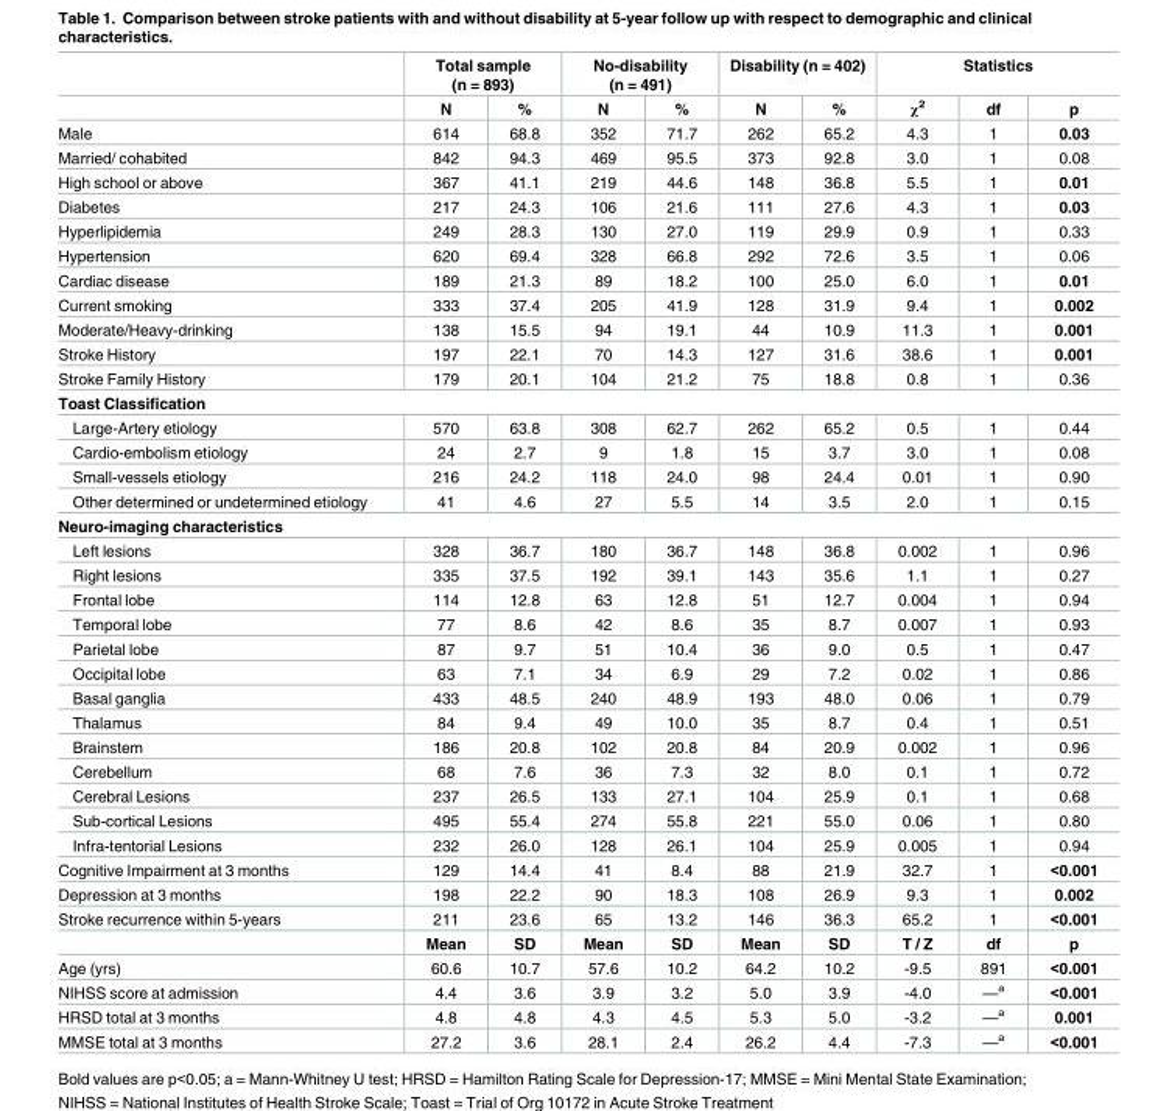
<table><thead><tr><td rowspan="2"></td><td colspan="2">Total sample (n = 893)</td><td colspan="2">No-disability (n = 491)</td><td colspan="2">Disability (n = 402)</td><td colspan="3">Statistics</td></tr><tr><td>N</td><td>%</td><td>N</td><td>%</td><td>N</td><td>%</td><td>χ<sup>2</sup></td><td>df</td><td>p</td></tr></thead><tbody><tr><td>Male</td><td>614</td><td>68.8</td><td>352</td><td>71.7</td><td>262</td><td>65.2</td><td>4.3</td><td>1</td><td>0.03</td></tr><tr><td>Married/ cohabited</td><td>842</td><td>94.3</td><td>469</td><td>95.5</td><td>373</td><td>92.8</td><td>3.0</td><td>1</td><td>0.08</td></tr><tr><td>High school or above</td><td>367</td><td>41.1</td><td>219</td><td>44.6</td><td>148</td><td>36.8</td><td>5.5</td><td>1</td><td>0.01</td></tr><tr><td>Diabetes</td><td>217</td><td>24.3</td><td>106</td><td>21.6</td><td>111</td><td>27.6</td><td>4.3</td><td>1</td><td>0.03</td></tr><tr><td>Hyperlipidemia</td><td>249</td><td>28.3</td><td>130</td><td>27.0</td><td>119</td><td>29.9</td><td>0.9</td><td>1</td><td>0.33</td></tr><tr><td>Hypertension</td><td>620</td><td>69.4</td><td>328</td><td>66.8</td><td>292</td><td>72.6</td><td>3.5</td><td>1</td><td>0.06</td></tr><tr><td>Cardiac disease</td><td>189</td><td>21.3</td><td>89</td><td>18.2</td><td>100</td><td>25.0</td><td>6.0</td><td>1</td><td>0.01</td></tr><tr><td>Current smoking</td><td>333</td><td>37.4</td><td>205</td><td>41.9</td><td>128</td><td>31.9</td><td>9.4</td><td>1</td><td>0.002</td></tr><tr><td>Moderate/Heavy-drinking</td><td>138</td><td>15.5</td><td>94</td><td>19.1</td><td>44</td><td>10.9</td><td>11.3</td><td>1</td><td>0.001</td></tr><tr><td>Stroke History</td><td>197</td><td>22.1</td><td>70</td><td>14.3</td><td>127</td><td>31.6</td><td>38.6</td><td>1</td><td>0.001</td></tr><tr><td>Stroke Family History</td><td>179</td><td>20.1</td><td>104</td><td>21.2</td><td>75</td><td>18.8</td><td>0.8</td><td>1</td><td>0.36</td></tr><tr><td colspan="10">Toast Classification</td></tr><tr><td>Large-Artery etiology</td><td>570</td><td>63.8</td><td>308</td><td>62.7</td><td>262</td><td>65.2</td><td>0.5</td><td>1</td><td>0.44</td></tr><tr><td>Cardio-embolism etiology</td><td>24</td><td>2.7</td><td>9</td><td>1.8</td><td>15</td><td>3.7</td><td>3.0</td><td>1</td><td>0.08</td></tr><tr><td>Small-vessels etiology</td><td>216</td><td>24.2</td><td>118</td><td>24.0</td><td>98</td><td>24.4</td><td>0.01</td><td>1</td><td>0.90</td></tr><tr><td>Other determined or undetermined etiology</td><td>41</td><td>4.6</td><td>27</td><td>5.5</td><td>14</td><td>3.5</td><td>2.0</td><td>1</td><td>0.15</td></tr><tr><td colspan="10">Neuro-imaging characteristics</td></tr><tr><td>Left lesions</td><td>328</td><td>36.7</td><td>180</td><td>36.7</td><td>148</td><td>36.8</td><td>0.002</td><td>1</td><td>0.96</td></tr><tr><td>Right lesions</td><td>335</td><td>37.5</td><td>192</td><td>39.1</td><td>143</td><td>35.6</td><td>1.1</td><td>1</td><td>0.27</td></tr><tr><td>Frontal lobe</td><td>114</td><td>12.8</td><td>63</td><td>12.8</td><td>51</td><td>12.7</td><td>0.004</td><td>1</td><td>0.94</td></tr><tr><td>Temporal lobe</td><td>77</td><td>8.6</td><td>42</td><td>8.6</td><td>35</td><td>8.7</td><td>0.007</td><td>1</td><td>0.93</td></tr><tr><td>Parietal lobe</td><td>87</td><td>9.7</td><td>51</td><td>10.4</td><td>36</td><td>9.0</td><td>0.5</td><td>1</td><td>0.47</td></tr><tr><td>Occipital lobe</td><td>63</td><td>7.1</td><td>34</td><td>6.9</td><td>29</td><td>7.2</td><td>0.02</td><td>1</td><td>0.86</td></tr><tr><td>Basal ganglia</td><td>433</td><td>48.5</td><td>240</td><td>48.9</td><td>193</td><td>48.0</td><td>0.06</td><td>1</td><td>0.79</td></tr><tr><td>Thalamus</td><td>84</td><td>9.4</td><td>49</td><td>10.0</td><td>35</td><td>8.7</td><td>0.4</td><td>1</td><td>0.51</td></tr><tr><td>Brainstem</td><td>186</td><td>20.8</td><td>102</td><td>20.8</td><td>84</td><td>20.9</td><td>0.002</td><td>1</td><td>0.96</td></tr><tr><td>Cerebellum</td><td>68</td><td>7.6</td><td>36</td><td>7.3</td><td>32</td><td>8.0</td><td>0.1</td><td>1</td><td>0.72</td></tr><tr><td>Cerebral Lesions</td><td>237</td><td>26.5</td><td>133</td><td>27.1</td><td>104</td><td>25.9</td><td>0.1</td><td>1</td><td>0.68</td></tr><tr><td>Sub-cortical Lesions</td><td>495</td><td>55.4</td><td>274</td><td>55.8</td><td>221</td><td>55.0</td><td>0.06</td><td>1</td><td>0.80</td></tr><tr><td>Infra-tentorial Lesions</td><td>232</td><td>26.0</td><td>128</td><td>26.1</td><td>104</td><td>25.9</td><td>0.005</td><td>1</td><td>0.94</td></tr><tr><td>Cognitive Impairment at 3 months</td><td>129</td><td>14.4</td><td>41</td><td>8.4</td><td>88</td><td>21.9</td><td>32.7</td><td>1</td><td>&lt;0.001</td></tr><tr><td>Depression at 3 months</td><td>198</td><td>22.2</td><td>90</td><td>18.3</td><td>108</td><td>26.9</td><td>9.3</td><td>1</td><td>0.002</td></tr><tr><td rowspan="2">Stroke recurrence within 5-years</td><td>211</td><td>23.6</td><td>65</td><td>13.2</td><td>146</td><td>36.3</td><td>65.2</td><td>1</td><td>&lt;0.001</td></tr><tr><td>Mean</td><td>SD</td><td>Mean</td><td>SD</td><td>Mean</td><td>SD</td><td>T / Z</td><td>df</td><td>p</td></tr><tr><td>Age (yrs)</td><td>60.6</td><td>10.7</td><td>57.6</td><td>10.2</td><td>64.2</td><td>10.2</td><td>-9.5</td><td>891</td><td>&lt;0.001</td></tr><tr><td>NIHSS score at admission</td><td>4.4</td><td>3.6</td><td>3.9</td><td>3.2</td><td>5.0</td><td>3.9</td><td>-4.0</td><td>—<sup>a</sup></td><td>&lt;0.001</td></tr><tr><td>HRSD total at 3 months</td><td>4.8</td><td>4.8</td><td>4.3</td><td>4.5</td><td>5.3</td><td>5.0</td><td>-3.2</td><td>—<sup>a</sup></td><td>0.001</td></tr><tr><td>MMSE total at 3 months</td><td>27.2</td><td>3.6</td><td>28.1</td><td>2.4</td><td>26.2</td><td>4.4</td><td>-7.3</td><td>—<sup>a</sup></td><td>&lt;0.001</td></tr></tbody></table>